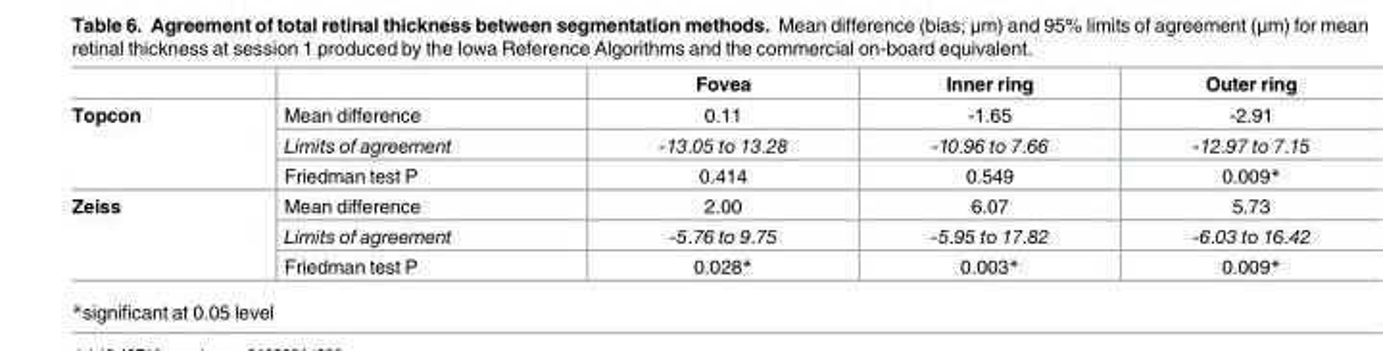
<table><thead><tr><td></td><td></td><td>Fovea</td><td>Inner ring</td><td>Outer ring</td></tr></thead><tbody><tr><td rowspan="3">Topcon</td><td>Mean difference</td><td>0.11</td><td>-1.65</td><td>-2.91</td></tr><tr><td>Limits of agreement</td><td>-13.05 to 13.28</td><td>-10.96 to 7.66</td><td>-12.97 to 7.15</td></tr><tr><td>Friedman test P</td><td>0.414</td><td>0.549</td><td>0.009*</td></tr><tr><td rowspan="3">Zeiss</td><td>Mean difference</td><td>2.00</td><td>6.07</td><td>5.73</td></tr><tr><td>Limits of agreement</td><td>-5.76 to 9.75</td><td>-5.95 to 17.82</td><td>-6.03 to 16.42</td></tr><tr><td>Friedman test P</td><td>0.028*</td><td>0.003*</td><td>0.009*</td></tr></tbody></table>